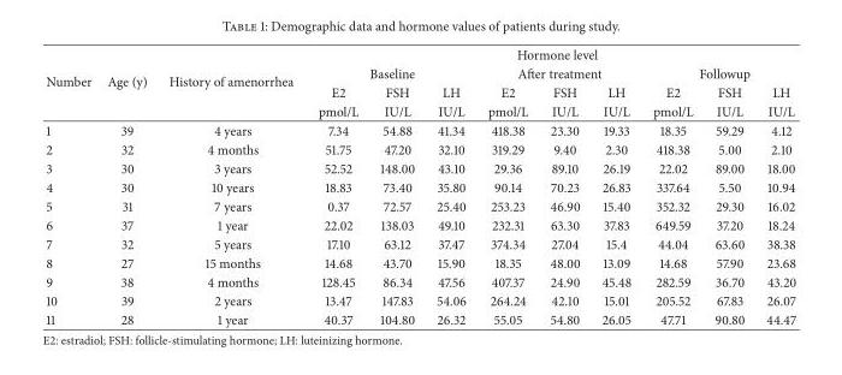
<table><thead><tr><td rowspan="4">Number</td><td rowspan="4">Age (y)</td><td rowspan="4">History of amenorrhea</td><td colspan="9">Hormone level</td></tr><tr><td colspan="3">Baseline</td><td colspan="3">After treatment</td><td colspan="3">Followup</td></tr><tr><td rowspan="2">E2 pmol/L</td><td rowspan="2">FSH IU/L</td><td rowspan="2">LH IU/L</td><td rowspan="2">E2 pmol/L</td><td rowspan="2">FSH IU/L</td><td rowspan="2">LH IU/L</td><td rowspan="2">E2 pmol/L</td><td rowspan="2">FSH IU/L</td><td rowspan="2">LH IU/L</td></tr><tr></tr></thead><tbody><tr><td>1</td><td>39</td><td>4 years</td><td>7.34</td><td>54.88</td><td>41.34</td><td>418.38</td><td>23.30</td><td>19.33</td><td>18.35</td><td>59.29</td><td>4.12</td></tr><tr><td>2</td><td>32</td><td>4 months</td><td>51.75</td><td>47.20</td><td>32.10</td><td>319.29</td><td>9.40</td><td>2.30</td><td>418.38</td><td>5.00</td><td>2.10</td></tr><tr><td>3</td><td>30</td><td>3 years</td><td>52.52</td><td>148.00</td><td>43.10</td><td>29.36</td><td>89.10</td><td>26.19</td><td>22.02</td><td>89.00</td><td>18.00</td></tr><tr><td>4</td><td>30</td><td>10 years</td><td>18.83</td><td>73.40</td><td>35.80</td><td>90.14</td><td>70.23</td><td>26.83</td><td>337.64</td><td>5.50</td><td>10.94</td></tr><tr><td>5</td><td>31</td><td>7 years</td><td>0.37</td><td>72.57</td><td>25.40</td><td>253.23</td><td>46.90</td><td>15.40</td><td>352.32</td><td>29.30</td><td>16.02</td></tr><tr><td>6</td><td>37</td><td>1 year</td><td>22.02</td><td>138.03</td><td>49.10</td><td>232.31</td><td>63.30</td><td>37.83</td><td>649.59</td><td>37.20</td><td>18.24</td></tr><tr><td>7</td><td>32</td><td>5 years</td><td>17.10</td><td>63.12</td><td>37.47</td><td>374.34</td><td>27.04</td><td>15.4</td><td>44.04</td><td>63.60</td><td>38.38</td></tr><tr><td>8</td><td>27</td><td>15 months</td><td>14.68</td><td>43.70</td><td>15.90</td><td>18.35</td><td>48.00</td><td>13.09</td><td>14.68</td><td>57.90</td><td>23.68</td></tr><tr><td>9</td><td>38</td><td>4 months</td><td>128.45</td><td>86.34</td><td>47.56</td><td>407.37</td><td>24.90</td><td>45.48</td><td>282.59</td><td>36.70</td><td>43.20</td></tr><tr><td>10</td><td>39</td><td>2 years</td><td>13.47</td><td>147.83</td><td>54.06</td><td>264.24</td><td>42.10</td><td>15.01</td><td>205.52</td><td>67.83</td><td>26.07</td></tr><tr><td>11</td><td>28</td><td>1 year</td><td>40.37</td><td>104.80</td><td>26.32</td><td>55.05</td><td>54.80</td><td>26.05</td><td>47.71</td><td>90.80</td><td>44.47</td></tr></tbody></table>